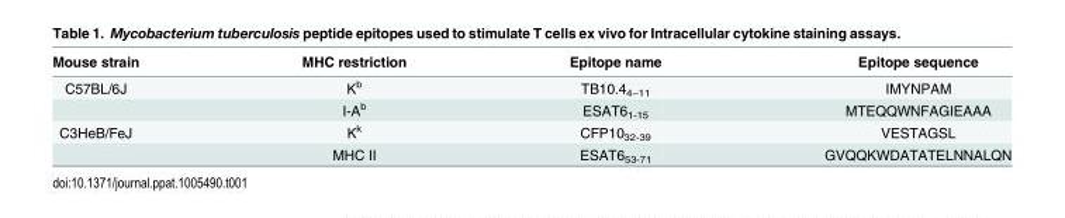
<table><thead><tr><td>Mouse strain</td><td>MHC restriction</td><td>Epitope name</td><td>Epitope sequence</td></tr></thead><tbody><tr><td rowspan="2">C57BL/6J</td><td>K<sup>b</sup></td><td>TB10.4<sub>4−11</sub></td><td>IMYNPAM</td></tr><tr><td>I-A<sup>b</sup></td><td>ESAT6<sub>1-15</sub></td><td>MTEQQWNFAGIEAAA</td></tr><tr><td rowspan="2">C3HeB/FeJ</td><td>K<sup>k</sup></td><td>CFP10<sub>32-39</sub></td><td>VESTAGSL</td></tr><tr><td>MHC II</td><td>ESAT6<sub>53-71</sub></td><td>GVQQKWDATATELNNALQN</td></tr></tbody></table>